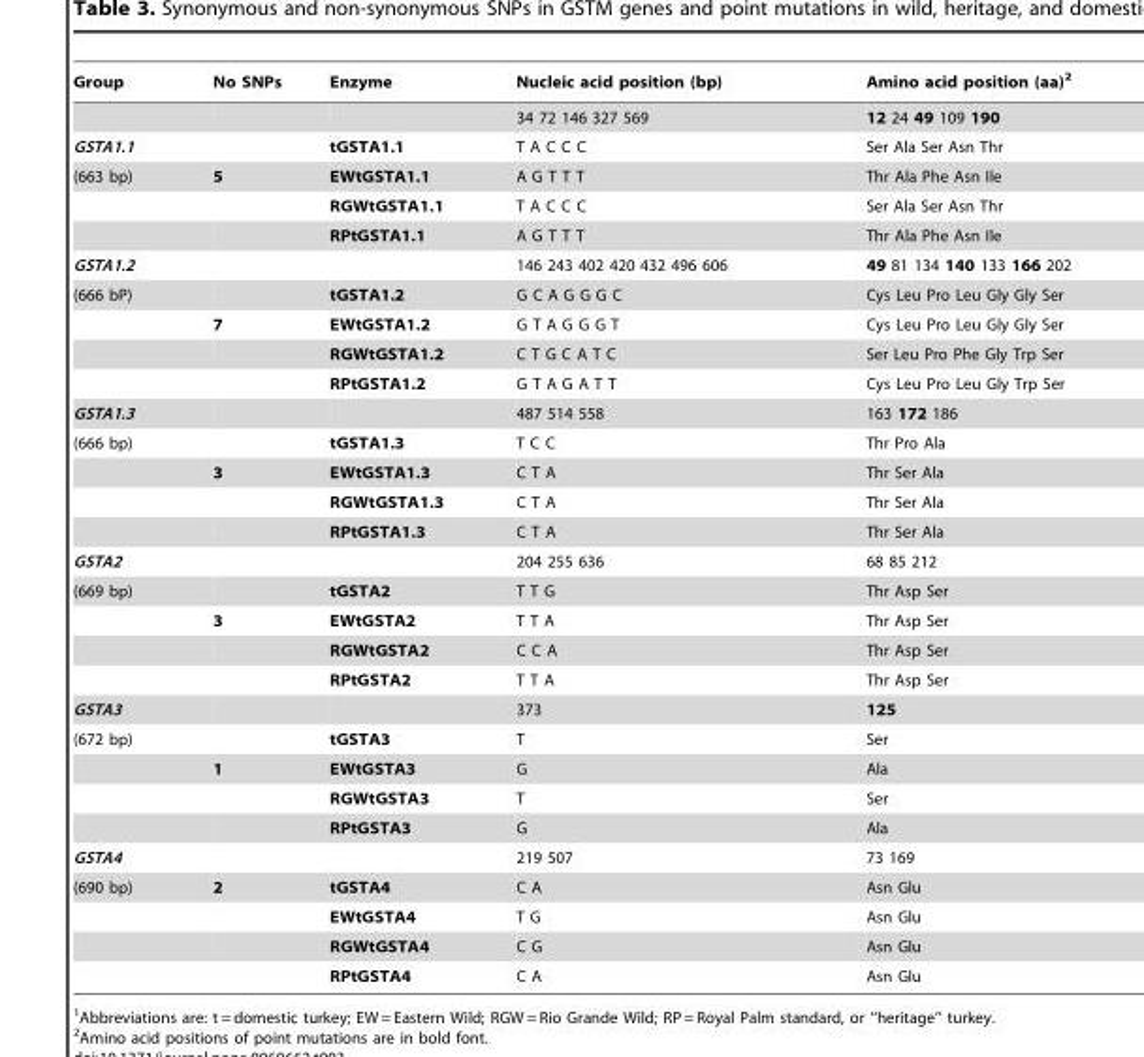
<table><thead><tr><td>Group</td><td>No SNPs</td><td>Enzyme</td><td>Nucleic acid position (bp)</td><td>Amino acid position (aa)<sup>2</sup></td></tr></thead><tbody><tr><td></td><td></td><td></td><td>34 72 146 327 569</td><td>12 24 49 109 190</td></tr><tr><td>GSTA1.1</td><td></td><td>tGSTA1.1</td><td>T A C C C</td><td>Ser Ala Ser Asn Thr</td></tr><tr><td rowspan="3">(663 bp)</td><td>5</td><td>EWtGSTA1.1</td><td>A G T T T</td><td>Thr Ala Phe Asn Ile</td></tr><tr><td></td><td>RGWtGSTA1.1</td><td>T A C C C</td><td>Ser Ala Ser Asn Thr</td></tr><tr><td></td><td>RPtGSTA1.1</td><td>A G T T T</td><td>Thr Ala Phe Asn Ile</td></tr><tr><td>GSTA1.2</td><td></td><td></td><td>146 243 402 420 432 496 606</td><td>49 81 134 140 133 166 202</td></tr><tr><td rowspan="4">(666 bP)</td><td></td><td>tGSTA1.2</td><td>G C A G G G C</td><td>Cys Leu Pro Leu Gly Gly Ser</td></tr><tr><td>7</td><td>EWtGSTA1.2</td><td>G T A G G G T</td><td>Cys Leu Pro Leu Gly Gly Ser</td></tr><tr><td></td><td>RGWtGSTA1.2</td><td>C T G C A T C</td><td>Ser Leu Pro Phe Gly Trp Ser</td></tr><tr><td></td><td>RPtGSTA1.2</td><td>G T A G A T T</td><td>Cys Leu Pro Leu Gly Trp Ser</td></tr><tr><td>GSTA1.3</td><td></td><td></td><td>487 514 558</td><td>163 172 186</td></tr><tr><td rowspan="4">(666 bp)</td><td></td><td>tGSTA1.3</td><td>T C C</td><td>Thr Pro Ala</td></tr><tr><td>3</td><td>EWtGSTA1.3</td><td>C T A</td><td>Thr Ser Ala</td></tr><tr><td></td><td>RGWtGSTA1.3</td><td>C T A</td><td>Thr Ser Ala</td></tr><tr><td></td><td>RPtGSTA1.3</td><td>C T A</td><td>Thr Ser Ala</td></tr><tr><td>GSTA2</td><td></td><td></td><td>204 255 636</td><td>68 85 212</td></tr><tr><td rowspan="4">(669 bp)</td><td></td><td>tGSTA2</td><td>T T G</td><td>Thr Asp Ser</td></tr><tr><td>3</td><td>EWtGSTA2</td><td>T T A</td><td>Thr Asp Ser</td></tr><tr><td></td><td>RGWtGSTA2</td><td>C C A</td><td>Thr Asp Ser</td></tr><tr><td></td><td>RPtGSTA2</td><td>T T A</td><td>Thr Asp Ser</td></tr><tr><td>GSTA3</td><td></td><td></td><td>373</td><td>125</td></tr><tr><td rowspan="4">(672 bp)</td><td></td><td>tGSTA3</td><td>T</td><td>Ser</td></tr><tr><td>1</td><td>EWtGSTA3</td><td>G</td><td>Ala</td></tr><tr><td></td><td>RGWtGSTA3</td><td>T</td><td>Ser</td></tr><tr><td></td><td>RPtGSTA3</td><td>G</td><td>Ala</td></tr><tr><td>GSTA4</td><td></td><td></td><td>219 507</td><td>73 169</td></tr><tr><td rowspan="4">(690 bp)</td><td>2</td><td>tGSTA4</td><td>C A</td><td>Asn Glu</td></tr><tr><td></td><td>EWtGSTA4</td><td>T G</td><td>Asn Glu</td></tr><tr><td></td><td>RGWtGSTA4</td><td>C G</td><td>Asn Glu</td></tr><tr><td></td><td>RPtGSTA4</td><td>C A</td><td>Asn Glu</td></tr></tbody></table>